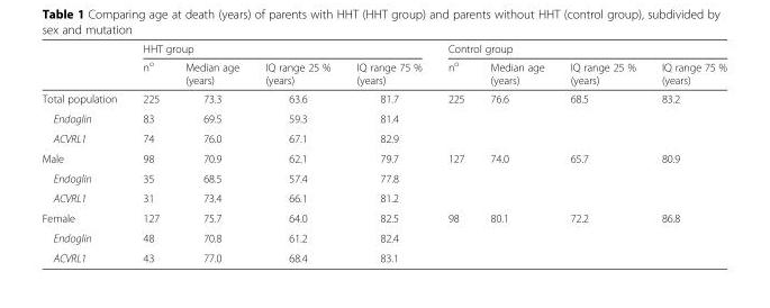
<table><thead><tr><td rowspan="2"></td><td colspan="4">HHT group</td><td colspan="4">Control group</td></tr><tr><td>n<sup>o</sup></td><td>Median age (years)</td><td>IQ range 25 % (years)</td><td>IQ range 75 % (years)</td><td>n<sup>o</sup></td><td>Median age (years)</td><td>IQ range 25 % (years)</td><td>IQ range 75 % (years)</td></tr></thead><tbody><tr><td>Total population</td><td>225</td><td>73.3</td><td>63.6</td><td>81.7</td><td>225</td><td>76.6</td><td>68.5</td><td>83.2</td></tr><tr><td>Endoglin</td><td>83</td><td>69.5</td><td>59.3</td><td>81.4</td><td></td><td></td><td></td><td></td></tr><tr><td>ACVRL1</td><td>74</td><td>76.0</td><td>67.1</td><td>82.9</td><td></td><td></td><td></td><td></td></tr><tr><td>Male</td><td>98</td><td>70.9</td><td>62.1</td><td>79.7</td><td>127</td><td>74.0</td><td>65.7</td><td>80.9</td></tr><tr><td>Endoglin</td><td>35</td><td>68.5</td><td>57.4</td><td>77.8</td><td></td><td></td><td></td><td></td></tr><tr><td>ACVRL1</td><td>31</td><td>73.4</td><td>66.1</td><td>81.2</td><td></td><td></td><td></td><td></td></tr><tr><td>Female</td><td>127</td><td>75.7</td><td>64.0</td><td>82.5</td><td>98</td><td>80.1</td><td>72.2</td><td>86.8</td></tr><tr><td>Endoglin</td><td>48</td><td>70.8</td><td>61.2</td><td>82.4</td><td></td><td></td><td></td><td></td></tr><tr><td>ACVRL1</td><td>43</td><td>77.0</td><td>68.4</td><td>83.1</td><td></td><td></td><td></td><td></td></tr></tbody></table>